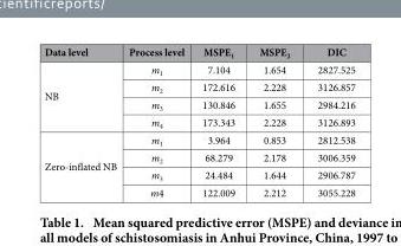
<table><thead><tr><td>Data level</td><td>Process level</td><td>MSPE<sub>1</sub></td><td>MSPE<sub>2</sub></td><td>DIC</td></tr></thead><tbody><tr><td rowspan="4">NB</td><td>m<sub>1</sub></td><td>7.104</td><td>1.654</td><td>2827.525</td></tr><tr><td>m<sub>2</sub></td><td>172.616</td><td>2.228</td><td>3126.857</td></tr><tr><td>m<sub>3</sub></td><td>130.846</td><td>1.655</td><td>2984.216</td></tr><tr><td>m<sub>4</sub></td><td>173.343</td><td>2.228</td><td>3126.893</td></tr><tr><td rowspan="4">Zero-inflated NB</td><td>m<sub>1</sub></td><td>3.964</td><td>0.853</td><td>2812.538</td></tr><tr><td>m<sub>2</sub></td><td>68.279</td><td>2.178</td><td>3006.359</td></tr><tr><td>m<sub>3</sub></td><td>24.484</td><td>1.644</td><td>2906.787</td></tr><tr><td>m4</td><td>122.009</td><td>2.212</td><td>3055.228</td></tr></tbody></table>